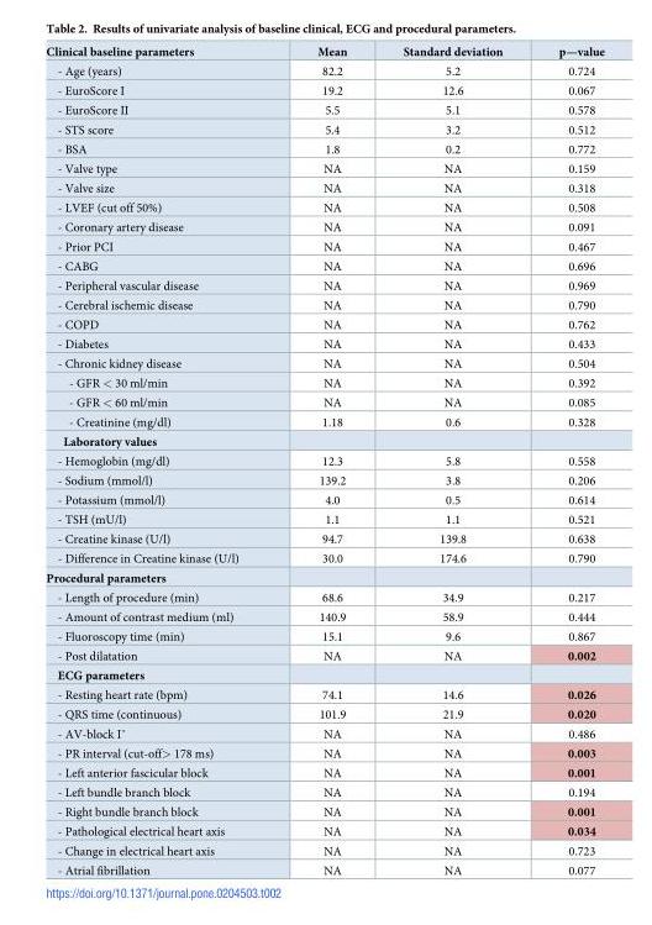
<table><thead><tr><td>Clinical baseline parameters</td><td>Mean</td><td>Standard deviation</td><td>p—value</td></tr></thead><tbody><tr><td>- Age (years)</td><td>82.2</td><td>5.2</td><td>0.724</td></tr><tr><td>- EuroScore I</td><td>19.2</td><td>12.6</td><td>0.067</td></tr><tr><td>- EuroScore II</td><td>5.5</td><td>5.1</td><td>0.578</td></tr><tr><td>- STS score</td><td>5.4</td><td>3.2</td><td>0.512</td></tr><tr><td>- BSA</td><td>1.8</td><td>0.2</td><td>0.772</td></tr><tr><td>- Valve type</td><td>NA</td><td>NA</td><td>0.159</td></tr><tr><td>- Valve size</td><td>NA</td><td>NA</td><td>0.318</td></tr><tr><td>- LVEF (cut off 50%)</td><td>NA</td><td>NA</td><td>0.508</td></tr><tr><td>- Coronary artery disease</td><td>NA</td><td>NA</td><td>0.091</td></tr><tr><td>- Prior PCI</td><td>NA</td><td>NA</td><td>0.467</td></tr><tr><td>- CABG</td><td>NA</td><td>NA</td><td>0.696</td></tr><tr><td>- Peripheral vascular disease</td><td>NA</td><td>NA</td><td>0.969</td></tr><tr><td>- Cerebral ischemic disease</td><td>NA</td><td>NA</td><td>0.790</td></tr><tr><td>- COPD</td><td>NA</td><td>NA</td><td>0.762</td></tr><tr><td>- Diabetes</td><td>NA</td><td>NA</td><td>0.433</td></tr><tr><td>- Chronic kidney disease</td><td>NA</td><td>NA</td><td>0.504</td></tr><tr><td>- GFR &lt; 30 ml/min</td><td>NA</td><td>NA</td><td>0.392</td></tr><tr><td>- GFR &lt; 60 ml/min</td><td>NA</td><td>NA</td><td>0.085</td></tr><tr><td>- Creatinine (mg/dl)</td><td>1.18</td><td>0.6</td><td>0.328</td></tr><tr><td colspan="4">Laboratory values</td></tr><tr><td>- Hemoglobin (mg/dl)</td><td>12.3</td><td>5.8</td><td>0.558</td></tr><tr><td>- Sodium (mmol/l)</td><td>139.2</td><td>3.8</td><td>0.206</td></tr><tr><td>- Potassium (mmol/l)</td><td>4.0</td><td>0.5</td><td>0.614</td></tr><tr><td>- TSH (mU/l)</td><td>1.1</td><td>1.1</td><td>0.521</td></tr><tr><td>- Creatine kinase (U/l)</td><td>94.7</td><td>139.8</td><td>0.638</td></tr><tr><td>- Difference in Creatine kinase (U/l)</td><td>30.0</td><td>174.6</td><td>0.790</td></tr><tr><td colspan="4">Procedural parameters</td></tr><tr><td>- Length of procedure (min)</td><td>68.6</td><td>34.9</td><td>0.217</td></tr><tr><td>- Amount of contrast medium (ml)</td><td>140.9</td><td>58.9</td><td>0.444</td></tr><tr><td>- Fluoroscopy time (min)</td><td>15.1</td><td>9.6</td><td>0.867</td></tr><tr><td>- Post dilatation</td><td>NA</td><td>NA</td><td>0.002</td></tr><tr><td colspan="4">ECG parameters</td></tr><tr><td>- Resting heart rate (bpm)</td><td>74.1</td><td>14.6</td><td>0.026</td></tr><tr><td>- QRS time (continuous)</td><td>101.9</td><td>21.9</td><td>0.020</td></tr><tr><td>- AV-block I˚</td><td>NA</td><td>NA</td><td>0.486</td></tr><tr><td>- PR interval (cut-off&gt; 178 ms)</td><td>NA</td><td>NA</td><td>0.003</td></tr><tr><td>- Left anterior fascicular block</td><td>NA</td><td>NA</td><td>0.001</td></tr><tr><td>- Left bundle branch block</td><td>NA</td><td>NA</td><td>0.194</td></tr><tr><td>- Right bundle branch block</td><td>NA</td><td>NA</td><td>0.001</td></tr><tr><td>- Pathological electrical heart axis</td><td>NA</td><td>NA</td><td>0.034</td></tr><tr><td>- Change in electrical heart axis</td><td>NA</td><td>NA</td><td>0.723</td></tr><tr><td>- Atrial fibrillation</td><td>NA</td><td>NA</td><td>0.077</td></tr></tbody></table>